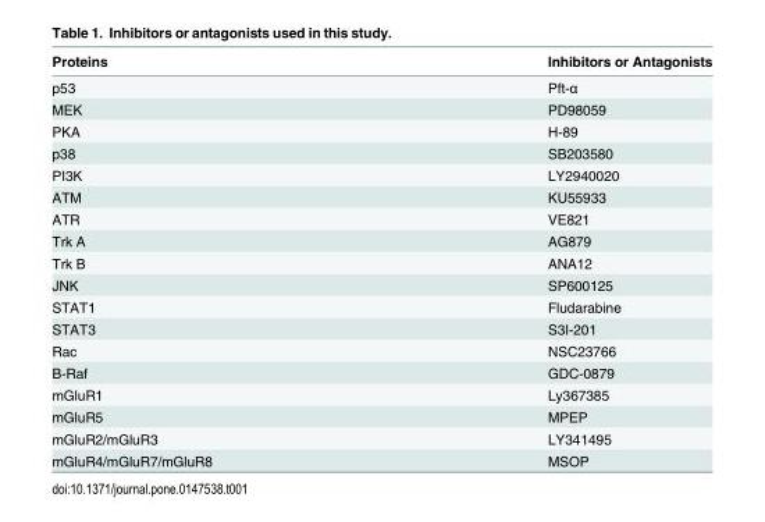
<table><thead><tr><td>Proteins</td><td>Inhibitors or Antagonists</td></tr></thead><tbody><tr><td>p53</td><td>Pft-α</td></tr><tr><td>MEK</td><td>PD98059</td></tr><tr><td>PKA</td><td>H-89</td></tr><tr><td>p38</td><td>SB203580</td></tr><tr><td>PI3K</td><td>LY2940020</td></tr><tr><td>ATM</td><td>KU55933</td></tr><tr><td>ATR</td><td>VE821</td></tr><tr><td>Trk A</td><td>AG879</td></tr><tr><td>Trk B</td><td>ANA12</td></tr><tr><td>JNK</td><td>SP600125</td></tr><tr><td>STAT1</td><td>Fludarabine</td></tr><tr><td>STAT3</td><td>S3I-201</td></tr><tr><td>Rac</td><td>NSC23766</td></tr><tr><td>B-Raf</td><td>GDC-0879</td></tr><tr><td>mGluR1</td><td>Ly367385</td></tr><tr><td>mGluR5</td><td>MPEP</td></tr><tr><td>mGluR2/mGluR3</td><td>LY341495</td></tr><tr><td>mGluR4/mGluR7/mGluR8</td><td>MSOP</td></tr></tbody></table>